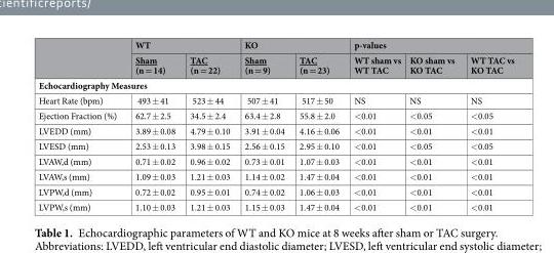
<table><thead><tr><td rowspan="2"></td><td colspan="2">WT</td><td colspan="2">KO</td><td colspan="3">p-values</td></tr><tr><td>Sham (n = 14)</td><td>TAC (n = 22)</td><td>Sham (n = 9)</td><td>TAC (n = 23)</td><td>WT sham vs WT TAC</td><td>KO sham vs KO TAC</td><td>WT TAC vs KO TAC</td></tr></thead><tbody><tr><td colspan="8">Echocardiography Measures</td></tr><tr><td>Heart Rate (bpm)</td><td>493 ± 41</td><td>523 ± 44</td><td>507 ± 41</td><td>517 ± 50</td><td>NS</td><td>NS</td><td>NS</td></tr><tr><td>Ejection Fraction (%)</td><td>62.7 ± 2.5</td><td>34.5 ± 2.4</td><td>63.4 ± 2.8</td><td>55.8 ± 2.0</td><td>&lt;0.01</td><td>&lt;0.05</td><td>&lt;0.05</td></tr><tr><td>LVEDD (mm)</td><td>3.89 ± 0.08</td><td>4.79 ± 0.10</td><td>3.91 ± 0.04</td><td>4.16 ± 0.06</td><td>&lt;0.01</td><td>&lt;0.01</td><td>&lt;0.01</td></tr><tr><td>LVESD (mm)</td><td>2.53 ± 0.13</td><td>3.98 ± 0.15</td><td>2.56 ± 0.15</td><td>2.95 ± 0.10</td><td>&lt;0.01</td><td>&lt;0.05</td><td>&lt;0.05</td></tr><tr><td>LVAW,d (mm)</td><td>0.71 ± 0.02</td><td>0.96 ± 0.02</td><td>0.73 ± 0.01</td><td>1.07 ± 0.03</td><td>&lt;0.01</td><td>&lt;0.01</td><td>&lt;0.01</td></tr><tr><td>LVAW,s (mm)</td><td>1.09 ± 0.03</td><td>1.21 ± 0.03</td><td>1.14 ± 0.02</td><td>1.47 ± 0.04</td><td>&lt;0.01</td><td>&lt;0.01</td><td>&lt;0.01</td></tr><tr><td>LVPW,d (mm)</td><td>0.72 ± 0.02</td><td>0.95 ± 0.01</td><td>0.74 ± 0.02</td><td>1.06 ± 0.03</td><td>&lt;0.01</td><td>&lt;0.01</td><td>&lt;0.01</td></tr><tr><td>LVPW,s (mm)</td><td>1.10 ± 0.03</td><td>1.21 ± 0.03</td><td>1.15 ± 0.03</td><td>1.47 ± 0.04</td><td>&lt;0.01</td><td>&lt;0.01</td><td>&lt;0.01</td></tr></tbody></table>